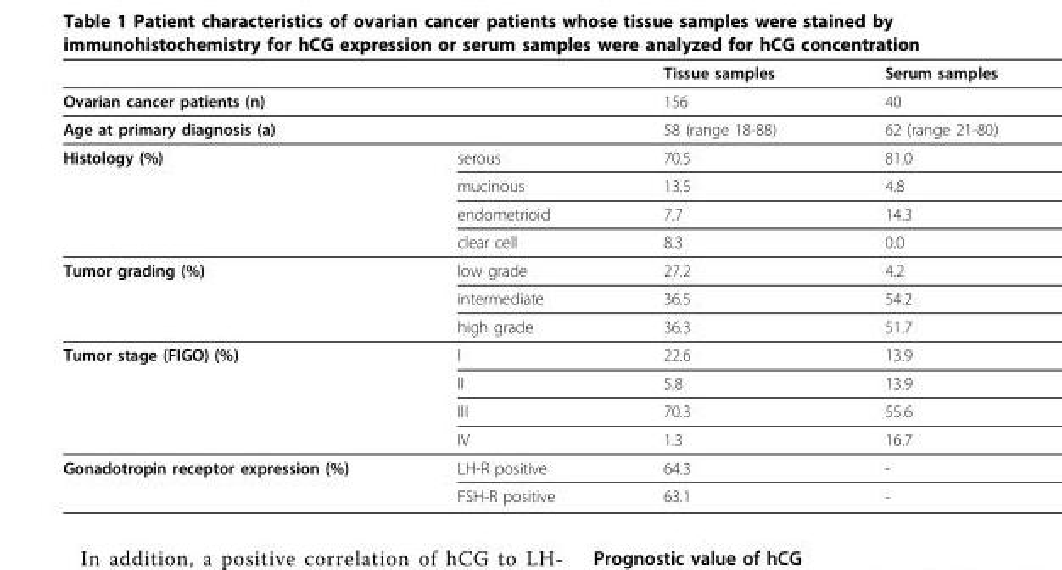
<table><thead><tr><td></td><td></td><td>Tissue samples</td><td>Serum samples</td></tr></thead><tbody><tr><td colspan="2">Ovarian cancer patients (n)</td><td>156</td><td>40</td></tr><tr><td colspan="2">Age at primary diagnosis (a)</td><td>58 (range 18-88)</td><td>62 (range 21-80)</td></tr><tr><td rowspan="4">Histology (%)</td><td>serous</td><td>70.5</td><td>81.0</td></tr><tr><td>mucinous</td><td>13.5</td><td>4.8</td></tr><tr><td>endometrioid</td><td>7.7</td><td>14.3</td></tr><tr><td>clear cell</td><td>8.3</td><td>0.0</td></tr><tr><td rowspan="3">Tumor grading (%)</td><td>low grade</td><td>27.2</td><td>4.2</td></tr><tr><td>intermediate</td><td>36.5</td><td>54.2</td></tr><tr><td>high grade</td><td>36.3</td><td>51.7</td></tr><tr><td rowspan="4">Tumor stage (FIGO) (%)</td><td>I</td><td>22.6</td><td>13.9</td></tr><tr><td>II</td><td>5.8</td><td>13.9</td></tr><tr><td>III</td><td>70.3</td><td>55.6</td></tr><tr><td>IV</td><td>1.3</td><td>16.7</td></tr><tr><td rowspan="2">Gonadotropin receptor expression (%)</td><td>LH-R positive</td><td>64.3</td><td>-</td></tr><tr><td>FSH-R positive</td><td>63.1</td><td>-</td></tr></tbody></table>